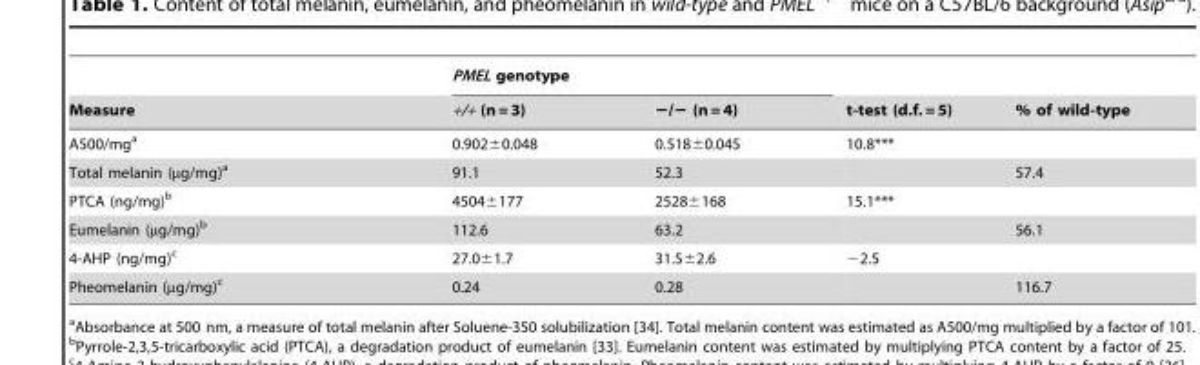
<table><thead><tr><td rowspan="2">Measure</td><td colspan="2">PMEL genotype</td><td rowspan="2">t-test (d.f. = 5)</td><td rowspan="2">% of wild-type</td></tr><tr><td>+/+ (n = 3)</td><td>−/− (n = 4)</td></tr></thead><tbody><tr><td>A500/mg<sup>a</sup></td><td>0.902±0.048</td><td>0.518±0.045</td><td>10.8***</td><td></td></tr><tr><td>Total melanin (µg/mg)<sup>a</sup></td><td>91.1</td><td>52.3</td><td></td><td>57.4</td></tr><tr><td>PTCA (ng/mg)<sup>b</sup></td><td>4504±177</td><td>2528±168</td><td>15.1***</td><td></td></tr><tr><td>Eumelanin (µg/mg)<sup>b</sup></td><td>112.6</td><td>63.2</td><td></td><td>56.1</td></tr><tr><td>4-AHP (ng/mg)<sup>c</sup></td><td>27.0±1.7</td><td>31.5±2.6</td><td>−2.5</td><td></td></tr><tr><td>Pheomelanin (µg/mg)<sup>c</sup></td><td>0.24</td><td>0.28</td><td></td><td>116.7</td></tr></tbody></table>